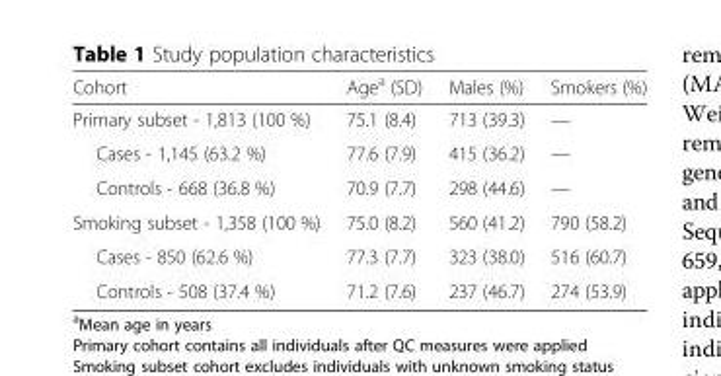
<table><thead><tr><td>Cohort</td><td>Age<sup>a</sup> (SD)</td><td>Males (%)</td><td>Smokers (%)</td></tr></thead><tbody><tr><td>Primary subset - 1,813 (100 %)</td><td>75.1 (8.4)</td><td>713 (39.3)</td><td>—</td></tr><tr><td>Cases - 1,145 (63.2 %)</td><td>77.6 (7.9)</td><td>415 (36.2)</td><td>—</td></tr><tr><td>Controls - 668 (36.8 %)</td><td>70.9 (7.7)</td><td>298 (44.6)</td><td>—</td></tr><tr><td>Smoking subset - 1,358 (100 %)</td><td>75.0 (8.2)</td><td>560 (41.2)</td><td>790 (58.2)</td></tr><tr><td>Cases - 850 (62.6 %)</td><td>77.3 (7.7)</td><td>323 (38.0)</td><td>516 (60.7)</td></tr><tr><td>Controls - 508 (37.4 %)</td><td>71.2 (7.6)</td><td>237 (46.7)</td><td>274 (53.9)</td></tr></tbody></table>